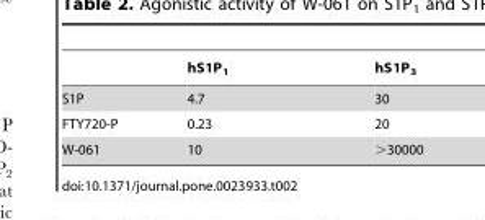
<table><thead><tr><td></td><td>hS1P<sub>1</sub></td><td>hS1P<sub>3</sub></td></tr></thead><tbody><tr><td>S1P</td><td>4.7</td><td>30</td></tr><tr><td>FTY720-P</td><td>0.23</td><td>20</td></tr><tr><td>W-061</td><td>10</td><td>&gt;30000</td></tr></tbody></table>